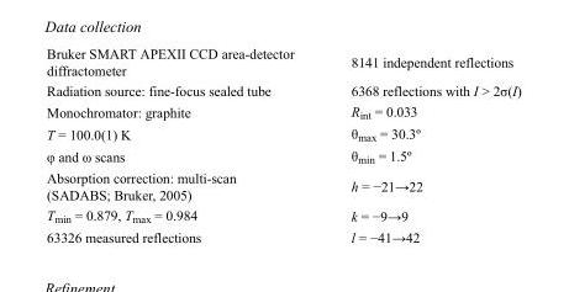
<table><tbody><tr><td>Bruker SMART APEXII CCD area-detector diffractometer</td><td>8141 independent reflections</td></tr><tr><td>Radiation source: fine-focus sealed tube</td><td>6368 reflections with I &gt; 2σ(I)</td></tr><tr><td>Monochromator: graphite</td><td>R<sub>int</sub> = 0.033</td></tr><tr><td>T = 100.0(1) K</td><td>θ<sub>max</sub> = 30.3º</td></tr><tr><td>φ and ω scans</td><td>θ<sub>min</sub> = 1.5º</td></tr><tr><td>Absorption correction: multi-scan (SADABS; Bruker, 2005)</td><td>h = −21→22</td></tr><tr><td>T<sub>min</sub> = 0.879, T<sub>max</sub> = 0.984</td><td>k = −9→9</td></tr><tr><td>63326 measured reflections</td><td>l = −41→42</td></tr></tbody></table>